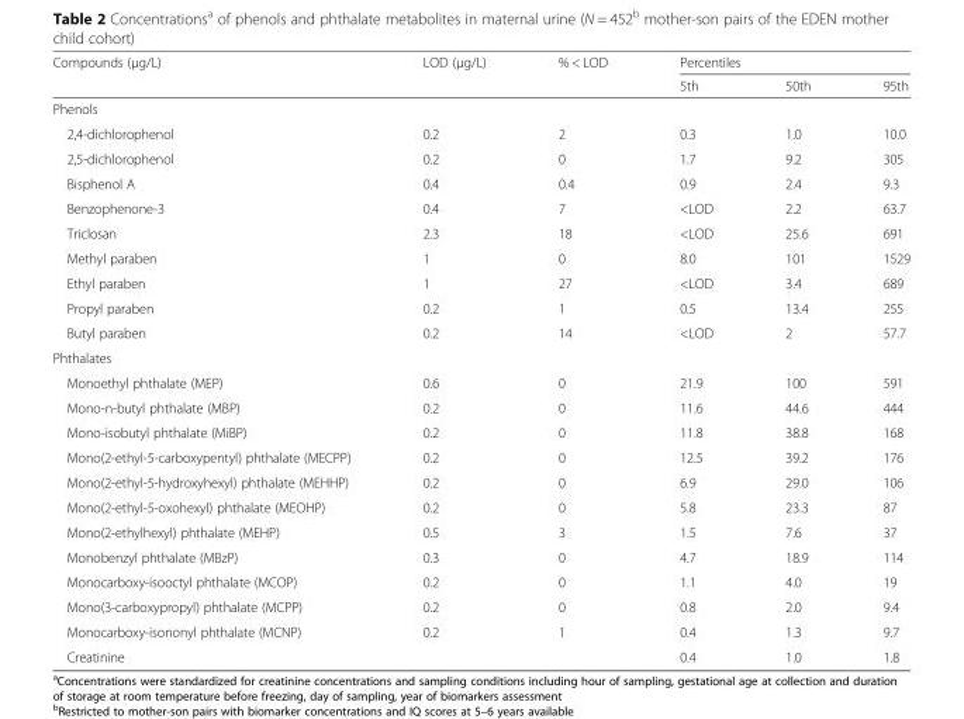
<table><thead><tr><td rowspan="2">Compounds (μg/L)</td><td rowspan="2">LOD (μg/L)</td><td rowspan="2">% &lt; LOD</td><td colspan="3">Percentiles</td></tr><tr><td>5th</td><td>50th</td><td>95th</td></tr></thead><tbody><tr><td colspan="6">Phenols</td></tr><tr><td>2,4-dichlorophenol</td><td>0.2</td><td>2</td><td>0.3</td><td>1.0</td><td>10.0</td></tr><tr><td>2,5-dichlorophenol</td><td>0.2</td><td>0</td><td>1.7</td><td>9.2</td><td>305</td></tr><tr><td>Bisphenol A</td><td>0.4</td><td>0.4</td><td>0.9</td><td>2.4</td><td>9.3</td></tr><tr><td>Benzophenone-3</td><td>0.4</td><td>7</td><td>&lt;LOD</td><td>2.2</td><td>63.7</td></tr><tr><td>Triclosan</td><td>2.3</td><td>18</td><td>&lt;LOD</td><td>25.6</td><td>691</td></tr><tr><td>Methyl paraben</td><td>1</td><td>0</td><td>8.0</td><td>101</td><td>1529</td></tr><tr><td>Ethyl paraben</td><td>1</td><td>27</td><td>&lt;LOD</td><td>3.4</td><td>689</td></tr><tr><td>Propyl paraben</td><td>0.2</td><td>1</td><td>0.5</td><td>13.4</td><td>255</td></tr><tr><td>Butyl paraben</td><td>0.2</td><td>14</td><td>&lt;LOD</td><td>2</td><td>57.7</td></tr><tr><td colspan="6">Phthalates</td></tr><tr><td>Monoethyl phthalate (MEP)</td><td>0.6</td><td>0</td><td>21.9</td><td>100</td><td>591</td></tr><tr><td>Mono-n-butyl phthalate (MBP)</td><td>0.2</td><td>0</td><td>11.6</td><td>44.6</td><td>444</td></tr><tr><td>Mono-isobutyl phthalate (MiBP)</td><td>0.2</td><td>0</td><td>11.8</td><td>38.8</td><td>168</td></tr><tr><td>Mono(2-ethyl-5-carboxypentyl) phthalate (MECPP)</td><td>0.2</td><td>0</td><td>12.5</td><td>39.2</td><td>176</td></tr><tr><td>Mono(2-ethyl-5-hydroxyhexyl) phthalate (MEHHP)</td><td>0.2</td><td>0</td><td>6.9</td><td>29.0</td><td>106</td></tr><tr><td>Mono(2-ethyl-5-oxohexyl) phthalate (MEOHP)</td><td>0.2</td><td>0</td><td>5.8</td><td>23.3</td><td>87</td></tr><tr><td>Mono(2-ethylhexyl) phthalate (MEHP)</td><td>0.5</td><td>3</td><td>1.5</td><td>7.6</td><td>37</td></tr><tr><td>Monobenzyl phthalate (MBzP)</td><td>0.3</td><td>0</td><td>4.7</td><td>18.9</td><td>114</td></tr><tr><td>Monocarboxy-isooctyl phthalate (MCOP)</td><td>0.2</td><td>0</td><td>1.1</td><td>4.0</td><td>19</td></tr><tr><td>Mono(3-carboxypropyl) phthalate (MCPP)</td><td>0.2</td><td>0</td><td>0.8</td><td>2.0</td><td>9.4</td></tr><tr><td>Monocarboxy-isononyl phthalate (MCNP)</td><td>0.2</td><td>1</td><td>0.4</td><td>1.3</td><td>9.7</td></tr><tr><td>Creatinine</td><td></td><td></td><td>0.4</td><td>1.0</td><td>1.8</td></tr></tbody></table>